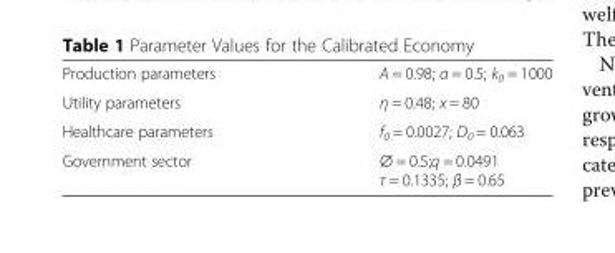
<table><tbody><tr><td>Production parameters</td><td>A = 0.98; α = 0.5; k<sub>0</sub> = 1000</td></tr><tr><td>Utility parameters</td><td>η = 0.48; x = 80</td></tr><tr><td>Healthcare parameters</td><td>f<sub>0</sub> = 0.0027; D<sub>0</sub> = 0.063</td></tr><tr><td>Government sector</td><td>∅ = 0.5;q = 0.0491 τ = 0.1335; β = 0.65</td></tr></tbody></table>